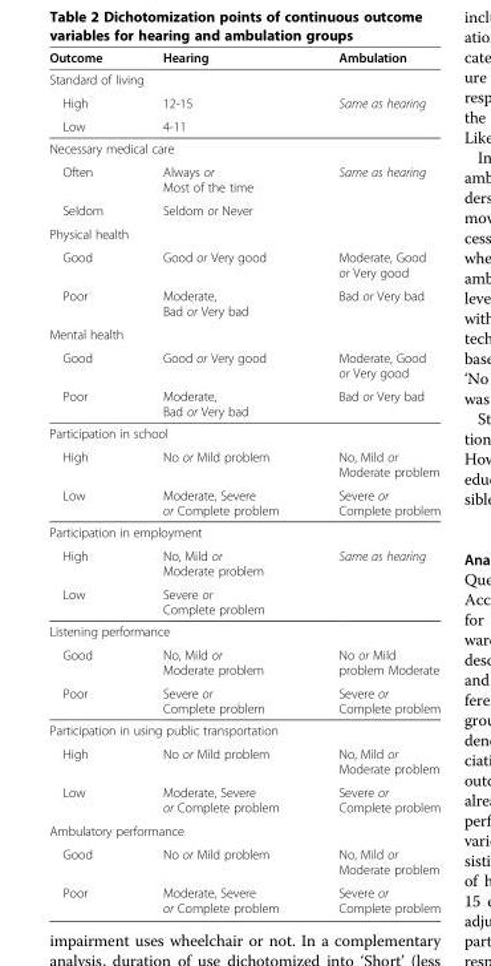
<table><thead><tr><td>Outcome</td><td>Hearing</td><td>Ambulation</td></tr></thead><tbody><tr><td colspan="3">Standard of living</td></tr><tr><td>High</td><td>12-15</td><td>Same as hearing</td></tr><tr><td>Low</td><td>4-11</td><td></td></tr><tr><td colspan="3">Necessary medical care</td></tr><tr><td>Often</td><td>Always or Most of the time</td><td>Same as hearing</td></tr><tr><td>Seldom</td><td>Seldom or Never</td><td></td></tr><tr><td colspan="3">Physical health</td></tr><tr><td>Good</td><td>Good or Very good</td><td>Moderate, Good or Very good</td></tr><tr><td>Poor</td><td>Moderate, Bad or Very bad</td><td>Bad or Very bad</td></tr><tr><td colspan="3">Mental health</td></tr><tr><td>Good</td><td>Good or Very good</td><td>Moderate, Good or Very good</td></tr><tr><td>Poor</td><td>Moderate, Bad or Very bad</td><td>Bad or Very bad</td></tr><tr><td colspan="3">Participation in school</td></tr><tr><td>High</td><td>No or Mild problem</td><td>No, Mild or Moderate problem</td></tr><tr><td>Low</td><td>Moderate, Severe or Complete problem</td><td>Severe or Complete problem</td></tr><tr><td colspan="3">Participation in employment</td></tr><tr><td>High</td><td>No, Mild or Moderate problem</td><td>Same as hearing</td></tr><tr><td>Low</td><td>Severe or Complete problem</td><td></td></tr><tr><td colspan="3">Listening performance</td></tr><tr><td>Good</td><td>No, Mild or Moderate problem</td><td>No or Mild problem Moderate</td></tr><tr><td>Poor</td><td>Severe or Complete problem</td><td>Severe or Complete problem</td></tr><tr><td colspan="3">Participation in using public transportation</td></tr><tr><td>High</td><td>No or Mild problem</td><td>No, Mild or Moderate problem</td></tr><tr><td>Low</td><td>Moderate, Severe or Complete problem</td><td>Severe or Complete problem</td></tr><tr><td colspan="3">Ambulatory performance</td></tr><tr><td>Good</td><td>No or Mild problem</td><td>No, Mild or Moderate problem</td></tr><tr><td>Poor</td><td>Moderate, Severe or Complete problem</td><td>Severe or Complete problem</td></tr></tbody></table>